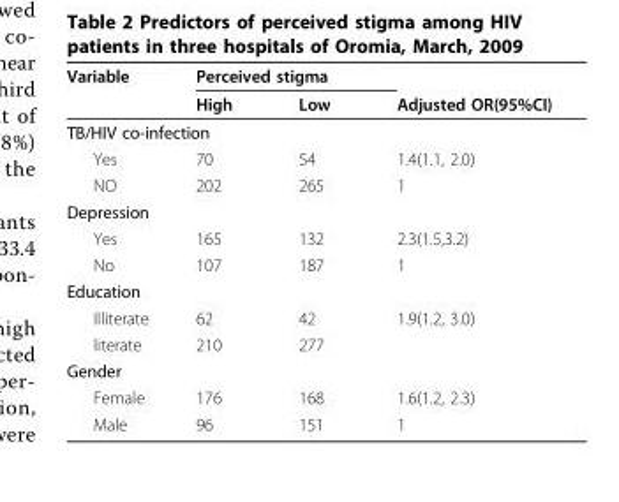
<table><thead><tr><td rowspan="2">Variable</td><td colspan="2">Perceived stigma</td><td rowspan="2">Adjusted OR(95%CI)</td></tr><tr><td>High</td><td>Low</td></tr></thead><tbody><tr><td colspan="4">TB/HIV co-infection</td></tr><tr><td>Yes</td><td>70</td><td>54</td><td>1.4(1.1, 2.0)</td></tr><tr><td>NO</td><td>202</td><td>265</td><td>1</td></tr><tr><td colspan="4">Depression</td></tr><tr><td>Yes</td><td>165</td><td>132</td><td>2.3(1.5,3.2)</td></tr><tr><td>No</td><td>107</td><td>187</td><td>1</td></tr><tr><td colspan="4">Education</td></tr><tr><td>Illiterate</td><td>62</td><td>42</td><td>1.9(1.2, 3.0)</td></tr><tr><td>literate</td><td>210</td><td>277</td><td></td></tr><tr><td colspan="4">Gender</td></tr><tr><td>Female</td><td>176</td><td>168</td><td>1.6(1.2, 2.3)</td></tr><tr><td>Male</td><td>96</td><td>151</td><td>1</td></tr></tbody></table>